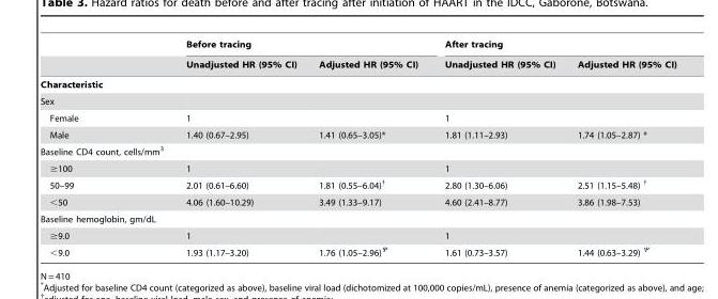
<table><thead><tr><td rowspan="2"></td><td colspan="2">Before tracing</td><td colspan="2">After tracing</td></tr><tr><td>Unadjusted HR (95% CI)</td><td>Adjusted HR (95% CI)</td><td>Unadjusted HR (95% CI)</td><td>Adjusted HR (95% CI)</td></tr></thead><tbody><tr><td colspan="5">Characteristic</td></tr><tr><td colspan="5">Sex</td></tr><tr><td>Female</td><td>1</td><td></td><td>1</td><td></td></tr><tr><td>Male</td><td>1.40 (0.67–2.95)</td><td>1.41 (0.65–3.05)*</td><td>1.81 (1.11–2.93)</td><td>1.74 (1.05–2.87) *</td></tr><tr><td colspan="5">Baseline CD4 count, cells/mm<sup>3</sup></td></tr><tr><td>≥100</td><td>1</td><td></td><td>1</td><td></td></tr><tr><td>50–99</td><td>2.01 (0.61–6.60)</td><td>1.81 (0.55–6.04)†</td><td>2.80 (1.30–6.06)</td><td>2.51 (1.15–5.48) †</td></tr><tr><td>&lt;50</td><td>4.06 (1.60–10.29)</td><td>3.49 (1.33–9.17)</td><td>4.60 (2.41–8.77)</td><td>3.86 (1.98–7.53)</td></tr><tr><td colspan="5">Baseline hemoglobin, gm/dL</td></tr><tr><td>≥9.0</td><td>1</td><td></td><td>1</td><td></td></tr><tr><td>&lt;9.0</td><td>1.93 (1.17–3.20)</td><td>1.76 (1.05–2.96)Ψ</td><td>1.61 (0.73–3.57)</td><td>1.44 (0.63–3.29) Ψ</td></tr></tbody></table>